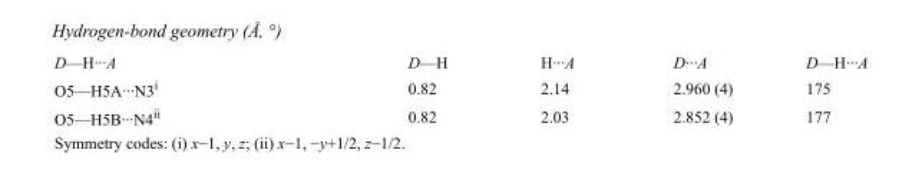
<table><tbody><tr><td>D—H···A</td><td>D—H</td><td>H···A</td><td>D···A</td><td>D—H···A</td></tr><tr><td>O5—H5A···N3<sup>i</sup></td><td>0.82</td><td>2.14</td><td>2.960 (4)</td><td>175</td></tr><tr><td>O5—H5B···N4<sup>ii</sup></td><td>0.82</td><td>2.03</td><td>2.852 (4)</td><td>177</td></tr></tbody></table>